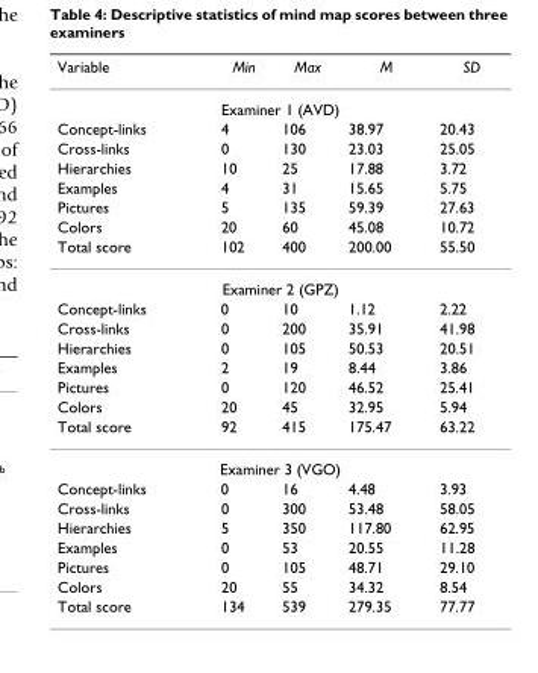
<table><thead><tr><td>Variable</td><td>Min</td><td>Max</td><td>M</td><td>SD</td></tr></thead><tbody><tr><td colspan="5">Examiner 1 (AVD)</td></tr><tr><td>Concept-links</td><td>4</td><td>106</td><td>38.97</td><td>20.43</td></tr><tr><td>Cross-links</td><td>0</td><td>130</td><td>23.03</td><td>25.05</td></tr><tr><td>Hierarchies</td><td>10</td><td>25</td><td>17.88</td><td>3.72</td></tr><tr><td>Examples</td><td>4</td><td>31</td><td>15.65</td><td>5.75</td></tr><tr><td>Pictures</td><td>5</td><td>135</td><td>59.39</td><td>27.63</td></tr><tr><td>Colors</td><td>20</td><td>60</td><td>45.08</td><td>10.72</td></tr><tr><td>Total score</td><td>102</td><td>400</td><td>200.00</td><td>55.50</td></tr><tr><td colspan="5">Examiner 2 (GPZ)</td></tr><tr><td>Concept-links</td><td>0</td><td>10</td><td>1.12</td><td>2.22</td></tr><tr><td>Cross-links</td><td>0</td><td>200</td><td>35.91</td><td>41.98</td></tr><tr><td>Hierarchies</td><td>0</td><td>105</td><td>50.53</td><td>20.51</td></tr><tr><td>Examples</td><td>2</td><td>19</td><td>8.44</td><td>3.86</td></tr><tr><td>Pictures</td><td>0</td><td>120</td><td>46.52</td><td>25.41</td></tr><tr><td>Colors</td><td>20</td><td>45</td><td>32.95</td><td>5.94</td></tr><tr><td>Total score</td><td>92</td><td>415</td><td>175.47</td><td>63.22</td></tr><tr><td colspan="5">Examiner 3 (VGO)</td></tr><tr><td>Concept-links</td><td>0</td><td>16</td><td>4.48</td><td>3.93</td></tr><tr><td>Cross-links</td><td>0</td><td>300</td><td>53.48</td><td>58.05</td></tr><tr><td>Hierarchies</td><td>5</td><td>350</td><td>117.80</td><td>62.95</td></tr><tr><td>Examples</td><td>0</td><td>53</td><td>20.55</td><td>11.28</td></tr><tr><td>Pictures</td><td>0</td><td>105</td><td>48.71</td><td>29.10</td></tr><tr><td>Colors</td><td>20</td><td>55</td><td>34.32</td><td>8.54</td></tr><tr><td>Total score</td><td>134</td><td>539</td><td>279.35</td><td>77.77</td></tr></tbody></table>